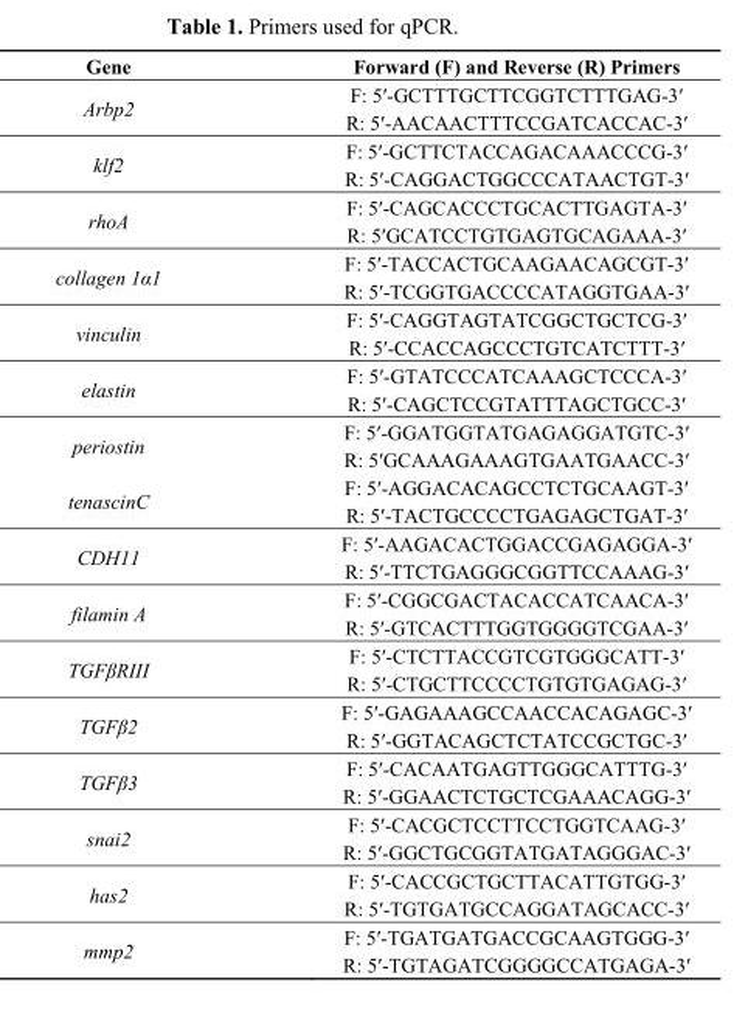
<table><thead><tr><td>Gene</td><td>Forward (F) and Reverse (R) Primers</td></tr></thead><tbody><tr><td rowspan="2">Arbp2</td><td>F: 5′-GCTTTGCTTCGGTCTTTGAG-3′</td></tr><tr><td>R: 5′-AACAACTTTCCGATCACCAC-3′</td></tr><tr><td rowspan="2">klf2</td><td>F: 5′-GCTTCTACCAGACAAACCCG-3′</td></tr><tr><td>R: 5′-CAGGACTGGCCCATAACTGT-3′</td></tr><tr><td rowspan="2">rhoA</td><td>F: 5′-CAGCACCCTGCACTTGAGTA-3′</td></tr><tr><td>R: 5′GCATCCTGTGAGTGCAGAAA-3′</td></tr><tr><td rowspan="2">collagen 1α1</td><td>F: 5′-TACCACTGCAAGAACAGCGT-3′</td></tr><tr><td>R: 5′-TCGGTGACCCCATAGGTGAA-3′</td></tr><tr><td rowspan="2">vinculin</td><td>F: 5′-CAGGTAGTATCGGCTGCTCG-3′</td></tr><tr><td>R: 5′-CCACCAGCCCTGTCATCTTT-3′</td></tr><tr><td rowspan="2">elastin</td><td>F: 5′-GTATCCCATCAAAGCTCCCA-3′</td></tr><tr><td>R: 5′-CAGCTCCGTATTTAGCTGCC-3′</td></tr><tr><td rowspan="2">periostin</td><td>F: 5′-GGATGGTATGAGAGGATGTC-3′</td></tr><tr><td>R: 5′GCAAAGAAAGTGAATGAACC-3′</td></tr><tr><td rowspan="2">tenascinC</td><td>F: 5′-AGGACACAGCCTCTGCAAGT-3′</td></tr><tr><td>R: 5′-TACTGCCCCTGAGAGCTGAT-3′</td></tr><tr><td rowspan="2">CDH11</td><td>F: 5′-AAGACACTGGACCGAGAGGA-3′</td></tr><tr><td>R: 5′-TTCTGAGGGCGGTTCCAAAG-3′</td></tr><tr><td rowspan="2">filamin A</td><td>F: 5′-CGGCGACTACACCATCAACA-3′</td></tr><tr><td>R: 5′-GTCACTTTGGTGGGGTCGAA-3′</td></tr><tr><td rowspan="2">TGFβRIII</td><td>F: 5′-CTCTTACCGTCGTGGGCATT-3′</td></tr><tr><td>R: 5′-CTGCTTCCCCTGTGTGAGAG-3′</td></tr><tr><td rowspan="2">TGFβ2</td><td>F: 5′-GAGAAAGCCAACCACAGAGC-3′</td></tr><tr><td>R: 5′-GGTACAGCTCTATCCGCTGC-3′</td></tr><tr><td rowspan="2">TGFβ3</td><td>F: 5′-CACAATGAGTTGGGCATTTG-3′</td></tr><tr><td>R: 5′-GGAACTCTGCTCGAAACAGG-3′</td></tr><tr><td rowspan="2">snai2</td><td>F: 5′-CACGCTCCTTCCTGGTCAAG-3′</td></tr><tr><td>R: 5′-GGCTGCGGTATGATAGGGAC-3′</td></tr><tr><td rowspan="2">has2</td><td>F: 5′-CACCGCTGCTTACATTGTGG-3′</td></tr><tr><td>R: 5′-TGTGATGCCAGGATAGCACC-3′</td></tr><tr><td rowspan="2">mmp2</td><td>F: 5′-TGATGATGACCGCAAGTGGG-3′</td></tr><tr><td>R: 5′-TGTAGATCGGGGCCATGAGA-3′</td></tr></tbody></table>